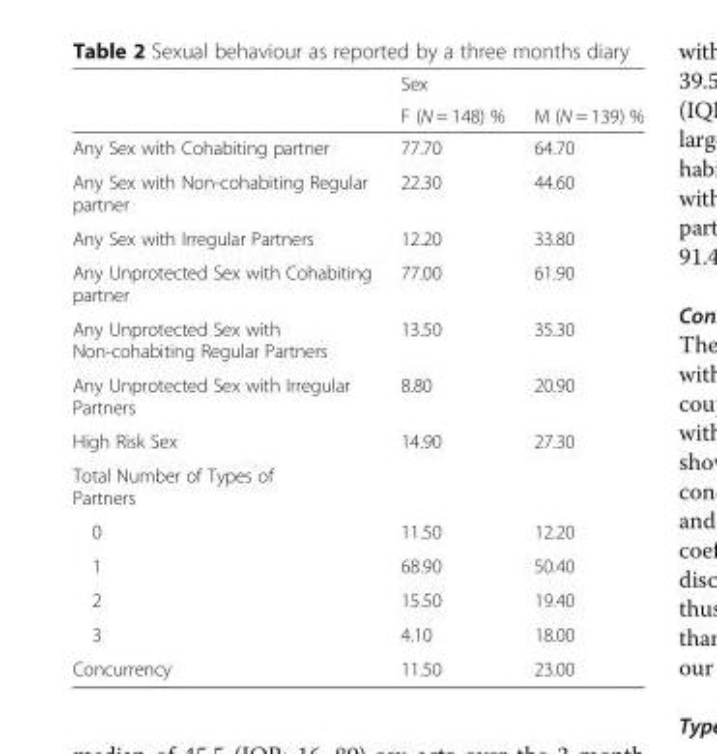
<table><thead><tr><td rowspan="2"></td><td rowspan="2">Sex F (N = 148) %</td><td rowspan="2">M (N = 139) %</td></tr><tr></tr></thead><tbody><tr><td>Any Sex with Cohabiting partner</td><td>77.70</td><td>64.70</td></tr><tr><td>Any Sex with Non-cohabiting Regular partner</td><td>22.30</td><td>44.60</td></tr><tr><td>Any Sex with Irregular Partners</td><td>12.20</td><td>33.80</td></tr><tr><td>Any Unprotected Sex with Cohabiting partner</td><td>77.00</td><td>61.90</td></tr><tr><td>Any Unprotected Sex with Non-cohabiting Regular Partners</td><td>13.50</td><td>35.30</td></tr><tr><td>Any Unprotected Sex with Irregular Partners</td><td>8.80</td><td>20.90</td></tr><tr><td>High Risk Sex</td><td>14.90</td><td>27.30</td></tr><tr><td colspan="3">Total Number of Types of Partners</td></tr><tr><td>0</td><td>11.50</td><td>12.20</td></tr><tr><td>1</td><td>68.90</td><td>50.40</td></tr><tr><td>2</td><td>15.50</td><td>19.40</td></tr><tr><td>3</td><td>4.10</td><td>18.00</td></tr><tr><td>Concurrency</td><td>11.50</td><td>23.00</td></tr></tbody></table>